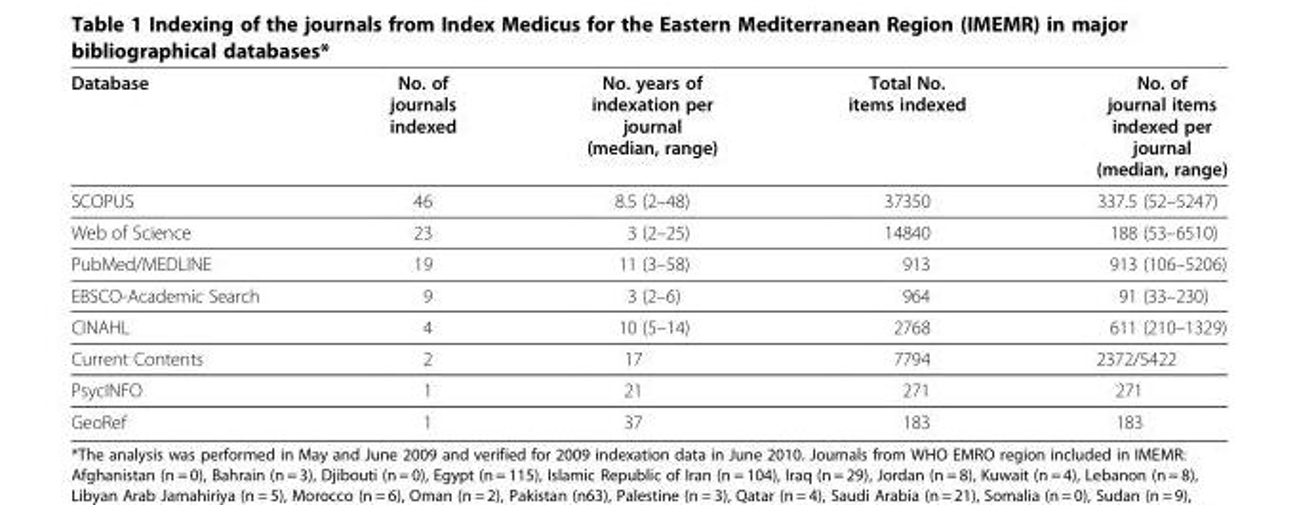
<table><thead><tr><td>Database</td><td>No. of journals indexed</td><td>No. years of indexation per journal (median, range)</td><td>Total No. items indexed</td><td>No. of journal items indexed per journal (median, range)</td></tr></thead><tbody><tr><td>SCOPUS</td><td>46</td><td>8.5 (2–48)</td><td>37350</td><td>337.5 (52–5247)</td></tr><tr><td>Web of Science</td><td>23</td><td>3 (2–25)</td><td>14840</td><td>188 (53–6510)</td></tr><tr><td>PubMed/MEDLINE</td><td>19</td><td>11 (3–58)</td><td>913</td><td>913 (106–5206)</td></tr><tr><td>EBSCO-Academic Search</td><td>9</td><td>3 (2–6)</td><td>964</td><td>91 (33–230)</td></tr><tr><td>CINAHL</td><td>4</td><td>10 (5–14)</td><td>2768</td><td>611 (210–1329)</td></tr><tr><td>Current Contents</td><td>2</td><td>17</td><td>7794</td><td>2372/5422</td></tr><tr><td>PsycINFO</td><td>1</td><td>21</td><td>271</td><td>271</td></tr><tr><td>GeoRef</td><td>1</td><td>37</td><td>183</td><td>183</td></tr></tbody></table>